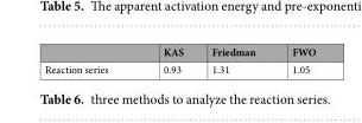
<table><thead><tr><td></td><td>KAS</td><td>Friedman</td><td>FWO</td></tr></thead><tbody><tr><td>Reaction series</td><td>0.93</td><td>1.31</td><td>1.05</td></tr></tbody></table>